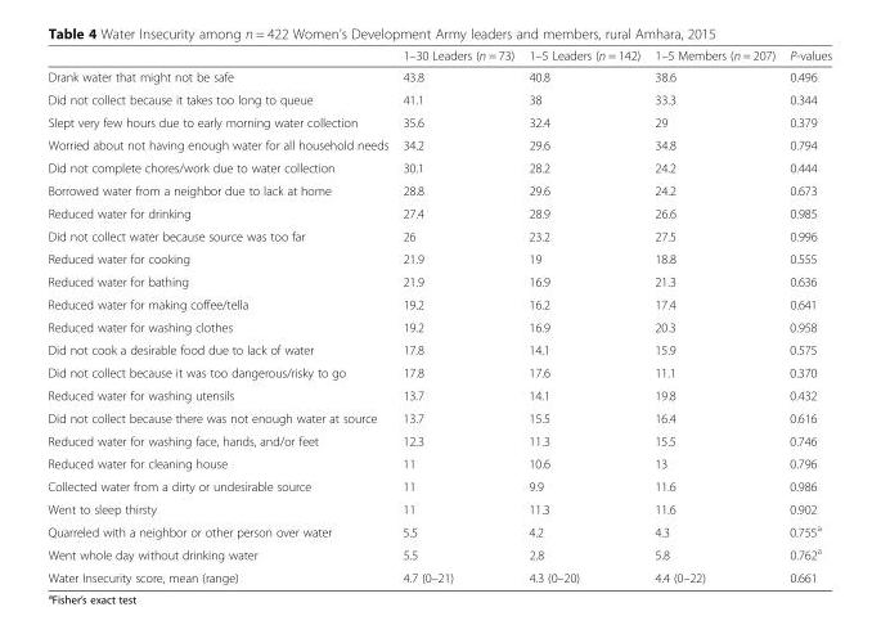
<table><thead><tr><td></td><td>1–30 Leaders (n = 73)</td><td>1–5 Leaders (n = 142)</td><td>1–5 Members (n = 207)</td><td>P-values</td></tr></thead><tbody><tr><td>Drank water that might not be safe</td><td>43.8</td><td>40.8</td><td>38.6</td><td>0.496</td></tr><tr><td>Did not collect because it takes too long to queue</td><td>41.1</td><td>38</td><td>33.3</td><td>0.344</td></tr><tr><td>Slept very few hours due to early morning water collection</td><td>35.6</td><td>32.4</td><td>29</td><td>0.379</td></tr><tr><td>Worried about not having enough water for all household needs</td><td>34.2</td><td>29.6</td><td>34.8</td><td>0.794</td></tr><tr><td>Did not complete chores/work due to water collection</td><td>30.1</td><td>28.2</td><td>24.2</td><td>0.444</td></tr><tr><td>Borrowed water from a neighbor due to lack at home</td><td>28.8</td><td>29.6</td><td>24.2</td><td>0.673</td></tr><tr><td>Reduced water for drinking</td><td>27.4</td><td>28.9</td><td>26.6</td><td>0.985</td></tr><tr><td>Did not collect water because source was too far</td><td>26</td><td>23.2</td><td>27.5</td><td>0.996</td></tr><tr><td>Reduced water for cooking</td><td>21.9</td><td>19</td><td>18.8</td><td>0.555</td></tr><tr><td>Reduced water for bathing</td><td>21.9</td><td>16.9</td><td>21.3</td><td>0.636</td></tr><tr><td>Reduced water for making coffee/tella</td><td>19.2</td><td>16.2</td><td>17.4</td><td>0.641</td></tr><tr><td>Reduced water for washing clothes</td><td>19.2</td><td>16.9</td><td>20.3</td><td>0.958</td></tr><tr><td>Did not cook a desirable food due to lack of water</td><td>17.8</td><td>14.1</td><td>15.9</td><td>0.575</td></tr><tr><td>Did not collect because it was too dangerous/risky to go</td><td>17.8</td><td>17.6</td><td>11.1</td><td>0.370</td></tr><tr><td>Reduced water for washing utensils</td><td>13.7</td><td>14.1</td><td>19.8</td><td>0.432</td></tr><tr><td>Did not collect because there was not enough water at source</td><td>13.7</td><td>15.5</td><td>16.4</td><td>0.616</td></tr><tr><td>Reduced water for washing face, hands, and/or feet</td><td>12.3</td><td>11.3</td><td>15.5</td><td>0.746</td></tr><tr><td>Reduced water for cleaning house</td><td>11</td><td>10.6</td><td>13</td><td>0.796</td></tr><tr><td>Collected water from a dirty or undesirable source</td><td>11</td><td>9.9</td><td>11.6</td><td>0.986</td></tr><tr><td>Went to sleep thirsty</td><td>11</td><td>11.3</td><td>11.6</td><td>0.902</td></tr><tr><td>Quarreled with a neighbor or other person over water</td><td>5.5</td><td>4.2</td><td>4.3</td><td>0.755<sup>a</sup></td></tr><tr><td>Went whole day without drinking water</td><td>5.5</td><td>2.8</td><td>5.8</td><td>0.762<sup>a</sup></td></tr><tr><td>Water Insecurity score, mean (range)</td><td>4.7 (0–21)</td><td>4.3 (0–20)</td><td>4.4 (0–22)</td><td>0.661</td></tr></tbody></table>